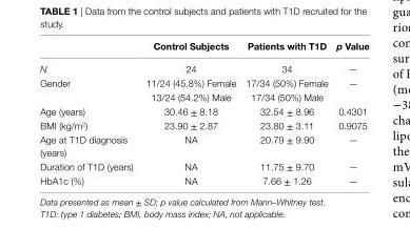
<table><thead><tr><td></td><td>control subjects</td><td>Patients with T1D</td><td>p Value</td></tr></thead><tbody><tr><td>N</td><td>24</td><td>34</td><td>—</td></tr><tr><td rowspan="2">Gender</td><td>11/24 (45.8%) Female</td><td>17/34 (50%) Female</td><td rowspan="2">—</td></tr><tr><td>13/24 (54.2%) Male</td><td>17/34 (50%) Male</td></tr><tr><td>Age (years)</td><td>30.46 ± 8.18</td><td>32.54 ± 8.96</td><td>0.4301</td></tr><tr><td>BMI (kg/m<sup>2</sup>)</td><td>23.90 ± 2.87</td><td>23.80 ± 3.11</td><td>0.9075</td></tr><tr><td>Age at T1D diagnosis (years)</td><td>NA</td><td>20.79 ± 9.90</td><td>—</td></tr><tr><td>Duration of T1D (years)</td><td>NA</td><td>11.75 ± 9.70</td><td>—</td></tr><tr><td>HbA1c (%)</td><td>NA</td><td>7.66 ± 1.26</td><td>—</td></tr></tbody></table>